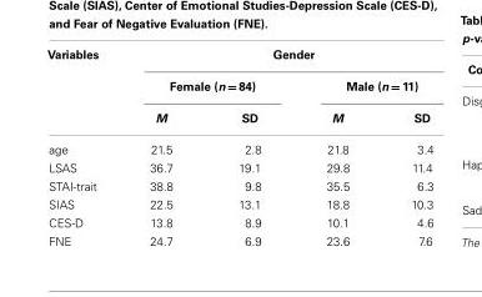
<table><thead><tr><td rowspan="3">Variables</td><td colspan="4">Gender</td></tr><tr><td colspan="2">Female (n = 84)</td><td colspan="2">Male (n = 11)</td></tr><tr><td>M</td><td>SD</td><td>M</td><td>SD</td></tr></thead><tbody><tr><td>age</td><td>21.5</td><td>2.8</td><td>21.8</td><td>3.4</td></tr><tr><td>LSAS</td><td>36.7</td><td>19.1</td><td>29.8</td><td>11.4</td></tr><tr><td>STAI-trait</td><td>38.8</td><td>9.8</td><td>35.5</td><td>6.3</td></tr><tr><td>SIAS</td><td>22.5</td><td>13.1</td><td>18.8</td><td>10.3</td></tr><tr><td>CES-D</td><td>13.8</td><td>8.9</td><td>10.1</td><td>4.6</td></tr><tr><td>FNE</td><td>24.7</td><td>6.9</td><td>23.6</td><td>7.6</td></tr></tbody></table>